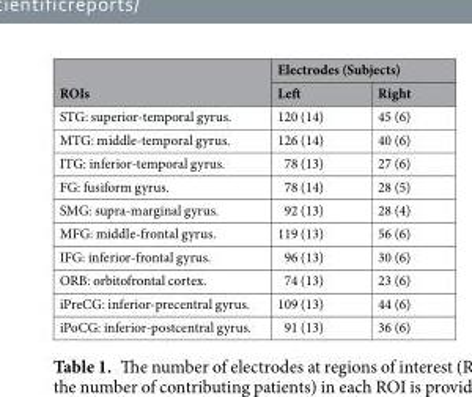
<table><thead><tr><td rowspan="2">ROIs</td><td colspan="2">Electrodes (Subjects)</td></tr><tr><td>Left</td><td>Right</td></tr></thead><tbody><tr><td>STG: superior-temporal gyrus.</td><td>120 (14)</td><td>45 (6)</td></tr><tr><td>MTG: middle-temporal gyrus.</td><td>126 (14)</td><td>40 (6)</td></tr><tr><td>ITG: inferior-temporal gyrus.</td><td>78 (13)</td><td>27 (6)</td></tr><tr><td>FG: fusiform gyrus.</td><td>78 (14)</td><td>28 (5)</td></tr><tr><td>SMG: supra-marginal gyrus.</td><td>92 (13)</td><td>28 (4)</td></tr><tr><td>MFG: middle-frontal gyrus.</td><td>119 (13)</td><td>56 (6)</td></tr><tr><td>IFG: inferior-frontal gyrus.</td><td>96 (13)</td><td>30 (6)</td></tr><tr><td>ORB: orbitofrontal cortex.</td><td>74 (13)</td><td>23 (6)</td></tr><tr><td>iPreCG: inferior-precentral gyrus.</td><td>109 (13)</td><td>44 (6)</td></tr><tr><td>iPoCG: inferior-postcentral gyrus.</td><td>91 (13)</td><td>36 (6)</td></tr></tbody></table>